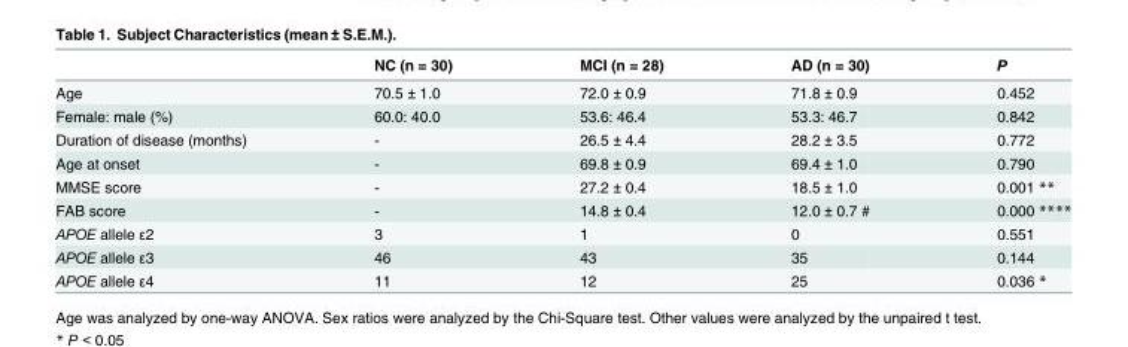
<table><thead><tr><td></td><td>NC (n = 30)</td><td>MCI (n = 28)</td><td>AD (n = 30)</td><td>P</td></tr></thead><tbody><tr><td>Age</td><td>70.5 ± 1.0</td><td>72.0 ± 0.9</td><td>71.8 ± 0.9</td><td>0.452</td></tr><tr><td>Female: male (%)</td><td>60.0: 40.0</td><td>53.6: 46.4</td><td>53.3: 46.7</td><td>0.842</td></tr><tr><td>Duration of disease (months)</td><td>-</td><td>26.5 ± 4.4</td><td>28.2 ± 3.5</td><td>0.772</td></tr><tr><td>Age at onset</td><td>-</td><td>69.8 ± 0.9</td><td>69.4 ± 1.0</td><td>0.790</td></tr><tr><td>MMSE score</td><td>-</td><td>27.2 ± 0.4</td><td>18.5 ± 1.0</td><td>0.001 **</td></tr><tr><td>FAB score</td><td>-</td><td>14.8 ± 0.4</td><td>12.0 ± 0.7 #</td><td>0.000 ****</td></tr><tr><td>APOE allele ε2</td><td>3</td><td>1</td><td>0</td><td>0.551</td></tr><tr><td>APOE allele ε3</td><td>46</td><td>43</td><td>35</td><td>0.144</td></tr><tr><td>APOE allele ε4</td><td>11</td><td>12</td><td>25</td><td>0.036 *</td></tr></tbody></table>